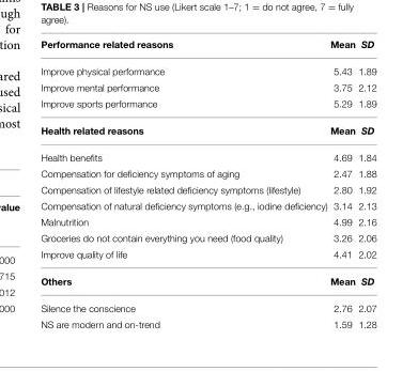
<table><thead><tr><td>Performance related reasons</td><td>Mean</td><td>SD</td></tr></thead><tbody><tr><td>Improve physical performance</td><td>5.43</td><td>1.89</td></tr><tr><td>Improve mental performance</td><td>3.75</td><td>2.12</td></tr><tr><td>Improve sports performance</td><td>5.29</td><td>1.89</td></tr><tr><td>Health related reasons</td><td>Mean</td><td>SD</td></tr><tr><td>Health benefits</td><td>4.69</td><td>1.84</td></tr><tr><td>Compensation for deficiency symptoms of aging</td><td>2.47</td><td>1.88</td></tr><tr><td>Compensation of lifestyle related deficiency symptoms (lifestyle)</td><td>2.80</td><td>1.92</td></tr><tr><td>Compensation of natural deficiency symptoms (e.g., iodine deficiency)</td><td>3.14</td><td>2.13</td></tr><tr><td>Malnutrition</td><td>4.99</td><td>2.16</td></tr><tr><td>Groceries do not contain everything you need (food quality)</td><td>3.26</td><td>2.06</td></tr><tr><td>Improve quality of life</td><td>4.41</td><td>2.02</td></tr><tr><td>Others</td><td>Mean</td><td>SD</td></tr><tr><td>Silence the conscience</td><td>2.76</td><td>2.07</td></tr><tr><td>NS are modern and on-trend</td><td>1.59</td><td>1.28</td></tr></tbody></table>